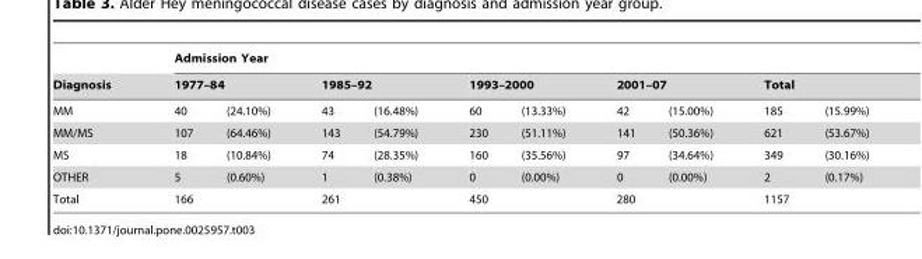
<table><thead><tr><td rowspan="3">Diagnosis MM</td><td colspan="10">Admission Year</td></tr><tr><td colspan="2">1977–84</td><td colspan="2">1985–92</td><td colspan="2">1993–2000</td><td colspan="2">2001–07</td><td colspan="2">Total</td></tr><tr><td>40</td><td>(24.10%)</td><td>43</td><td>(16.48%)</td><td>60</td><td>(13.33%)</td><td>42</td><td>(15.00%)</td><td>185</td><td>(15.99%)</td></tr></thead><tbody><tr><td>MM/MS</td><td>107</td><td>(64.46%)</td><td>143</td><td>(54.79%)</td><td>230</td><td>(51.11%)</td><td>141</td><td>(50.36%)</td><td>621</td><td>(53.67%)</td></tr><tr><td>MS</td><td>18</td><td>(10.84%)</td><td>74</td><td>(28.35%)</td><td>160</td><td>(35.56%)</td><td>97</td><td>(34.64%)</td><td>349</td><td>(30.16%)</td></tr><tr><td>OTHER</td><td>5</td><td>(0.60%)</td><td>1</td><td>(0.38%)</td><td>0</td><td>(0.00%)</td><td>0</td><td>(0.00%)</td><td>2</td><td>(0.17%)</td></tr><tr><td>Total</td><td>166</td><td></td><td>261</td><td></td><td>450</td><td></td><td>280</td><td></td><td>1157</td><td></td></tr></tbody></table>